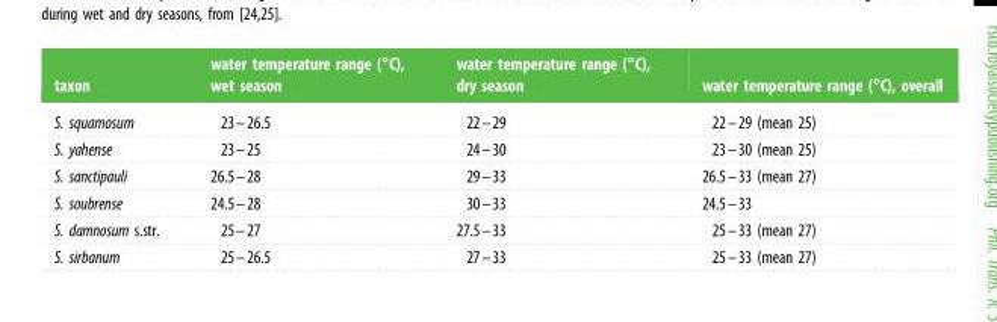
<table><thead><tr><td>taxon</td><td>water temperature range (88888C), wet season</td><td>water temperature range (88888C), dry season</td><td>water temperature range (88888C), overall</td></tr></thead><tbody><tr><td>S. squamosum</td><td>23–26.5</td><td>22–29</td><td>22–29 (mean 25)</td></tr><tr><td>S. yahense</td><td>23–25</td><td>24–30</td><td>23–30 (mean 25)</td></tr><tr><td>S. sanctipauli</td><td>26.5–28</td><td>29–33</td><td>26.5–33 (mean 27)</td></tr><tr><td>S. soubrense</td><td>24.5–28</td><td>30–33</td><td>24.5–33</td></tr><tr><td>S. damnosum s.str.</td><td>25–27</td><td>27.5–33</td><td>25–33 (mean 27)</td></tr><tr><td>S. sirbanum</td><td>25–26.5</td><td>27–33</td><td>25–33 (mean 27)</td></tr></tbody></table>